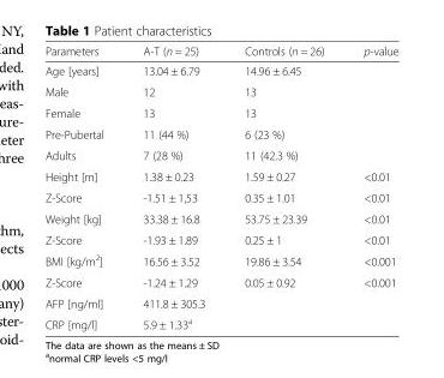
<table><thead><tr><td>Parameters</td><td>A-T (n = 25)</td><td>Controls (n = 26)</td><td>p-value</td></tr></thead><tbody><tr><td>Age [years]</td><td>13.04 ± 6.79</td><td>14.96 ± 6.45</td><td></td></tr><tr><td>Male</td><td>12</td><td>13</td><td></td></tr><tr><td>Female</td><td>13</td><td>13</td><td></td></tr><tr><td>Pre-Pubertal</td><td>11 (44 %)</td><td>6 (23 %)</td><td rowspan="2"></td></tr><tr><td>Adults</td><td>7 (28 %)</td><td>11 (42.3 %)</td></tr><tr><td>Height [m]</td><td>1.38 ± 0.23</td><td>1.59 ± 0.27</td><td>&lt;0.01</td></tr><tr><td>Z-Score</td><td>-1.51 ± 1,53</td><td>0.35 ± 1.01</td><td>&lt;0.01</td></tr><tr><td>Weight [kg]</td><td>33.38 ± 16.8</td><td>53.75 ± 23.39</td><td>&lt;0.01</td></tr><tr><td>Z-Score</td><td>-1.93 ± 1.89</td><td>0.25 ± 1</td><td>&lt;0.01</td></tr><tr><td>BMI [kg/m<sup>2</sup>]</td><td>16.56 ± 3.52</td><td>19.86 ± 3.54</td><td>&lt;0.001</td></tr><tr><td>Z-Score</td><td>-1.24 ± 1.29</td><td>0.05 ± 0.92</td><td>&lt;0.001</td></tr><tr><td>AFP [ng/ml]</td><td>411.8 ± 305.3</td><td></td><td></td></tr><tr><td>CRP [mg/l]</td><td>5.9 ± 1.33<sup>a</sup></td><td></td><td></td></tr></tbody></table>